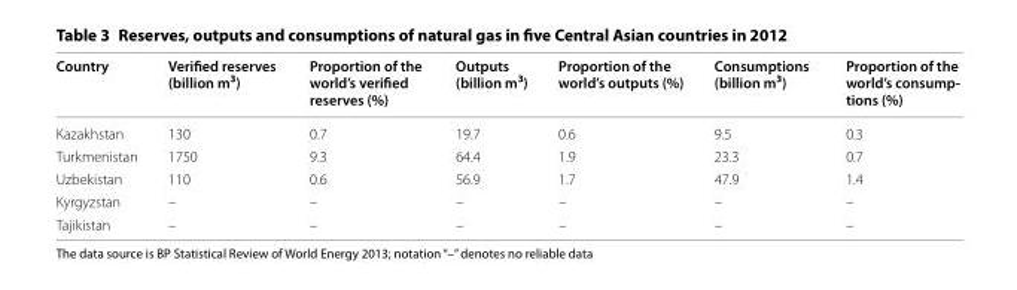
<table><thead><tr><td>Country</td><td>Verified reserves (billion m<sup>3</sup>)</td><td>Proportion of the world’s verified reserves (%)</td><td>Outputs (billion m<sup>3</sup>)</td><td>Proportion of the world’s outputs (%)</td><td>Consumptions (billion m<sup>3</sup>)</td><td>Proportion of the world’s consump‑ tions (%)</td></tr></thead><tbody><tr><td>Kazakhstan</td><td>130</td><td>0.7</td><td>19.7</td><td>0.6</td><td>9.5</td><td>0.3</td></tr><tr><td>Turkmenistan</td><td>1750</td><td>9.3</td><td>64.4</td><td>1.9</td><td>23.3</td><td>0.7</td></tr><tr><td>Uzbekistan</td><td>110</td><td>0.6</td><td>56.9</td><td>1.7</td><td>47.9</td><td>1.4</td></tr><tr><td>Kyrgyzstan</td><td>–</td><td>–</td><td>–</td><td>–</td><td>–</td><td>–</td></tr><tr><td>Tajikistan</td><td>–</td><td>–</td><td>–</td><td>–</td><td>–</td><td>–</td></tr></tbody></table>